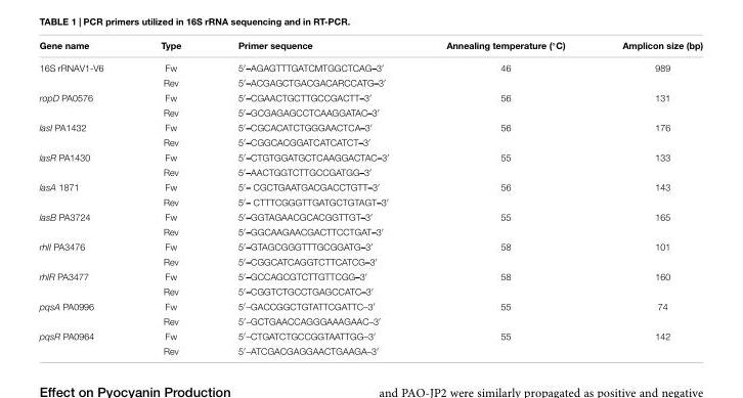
<table><thead><tr><td>Gene name</td><td>Type</td><td>Primer sequence</td><td>Annealing temperature (◦C)</td><td>Amplicon size (bp)</td></tr></thead><tbody><tr><td rowspan="2">16S rRNAV1-V6</td><td>Fw</td><td>5′–AGAGTTTGATCMTGGCTCAG–3′</td><td>46</td><td>989</td></tr><tr><td>Rev</td><td>5′–ACGAGCTGACGACARCCATG–3′</td><td></td><td></td></tr><tr><td rowspan="2">ropD PA0576</td><td>Fw</td><td>5′–CGAACTGCTTGCCGACTT–3′</td><td>56</td><td>131</td></tr><tr><td>Rev</td><td>5′–GCGAGAGCCTCAAGGATAC–3′</td><td></td><td></td></tr><tr><td rowspan="2">lasI PA1432</td><td>Fw</td><td>5′–CGCACATCTGGGAACTCA–3′</td><td>56</td><td>176</td></tr><tr><td>Rev</td><td>5′–CGGCACGGATCATCATCT–3′</td><td></td><td></td></tr><tr><td rowspan="2">lasR PA1430</td><td>Fw</td><td>5′–CTGTGGATGCTCAAGGACTAC–3′</td><td>55</td><td>133</td></tr><tr><td>Rev</td><td>5′–AACTGGTCTTGCCGATGG–3′</td><td></td><td></td></tr><tr><td rowspan="2">lasA 1871</td><td>Fw</td><td>5′– CGCTGAATGACGACCTGTT–3′</td><td>56</td><td>143</td></tr><tr><td>Rev</td><td>5′– CTTTCGGGTTGATGCTGTAGT–3′</td><td></td><td></td></tr><tr><td rowspan="2">lasB PA3724</td><td>Fw</td><td>5′–GGTAGAACGCACGGTTGT–3′</td><td>55</td><td>165</td></tr><tr><td>Rev</td><td>5′–GGCAAGAACGACTTCCTGAT–3′</td><td></td><td></td></tr><tr><td rowspan="2">rhlI PA3476</td><td>Fw</td><td>5′–GTAGCGGGTTTGCGGATG–3′</td><td>58</td><td>101</td></tr><tr><td>Rev</td><td>5′–CGGCATCAGGTCTTCATCG–3′</td><td></td><td></td></tr><tr><td rowspan="2">rhlR PA3477</td><td>Fw</td><td>5′–GCCAGCGTCTTGTTCGG–3′</td><td>58</td><td>160</td></tr><tr><td>Rev</td><td>5′–CGGTCTGCCTGAGCCATC–3′</td><td></td><td></td></tr><tr><td rowspan="2">pqsA PA0996</td><td>Fw</td><td>5′–GACCGGCTGTATTCGATTC–3′</td><td>55</td><td>74</td></tr><tr><td>Rev</td><td>5′–GCTGAACCAGGGAAAGAAC–3′</td><td></td><td></td></tr><tr><td rowspan="2">pqsR PA0964</td><td>Fw</td><td>5′–CTGATCTGCCGGTAATTGG–3′</td><td>55</td><td>142</td></tr><tr><td>Rev</td><td>5′–ATCGACGAGGAACTGAAGA–3′</td><td></td><td></td></tr></tbody></table>